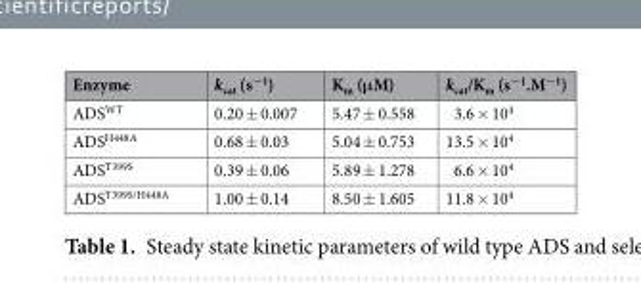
<table><thead><tr><td>Enzyme</td><td>k<sub>cat</sub> (s<sup>−1</sup>)</td><td>K<sub>m</sub> (μM)</td><td>k<sub>cat</sub>/K<sub>m</sub> (s<sup>−1</sup>.M<sup>−1</sup>)</td></tr></thead><tbody><tr><td>ADS<sup>WT</sup></td><td>0.20 ± 0.007</td><td>5.47 ± 0.558</td><td>3.6 × 10<sup>4</sup></td></tr><tr><td>ADS<sup>H448A</sup></td><td>0.68 ± 0.03</td><td>5.04 ± 0.753</td><td>13.5 × 10<sup>4</sup></td></tr><tr><td>ADS<sup>T399S</sup></td><td>0.39 ± 0.06</td><td>5.89 ± 1.278</td><td>6.6 × 10<sup>4</sup></td></tr><tr><td>ADS<sup>T399S/H448A</sup></td><td>1.00 ± 0.14</td><td>8.50 ± 1.605</td><td>11.8 × 10<sup>4</sup></td></tr></tbody></table>